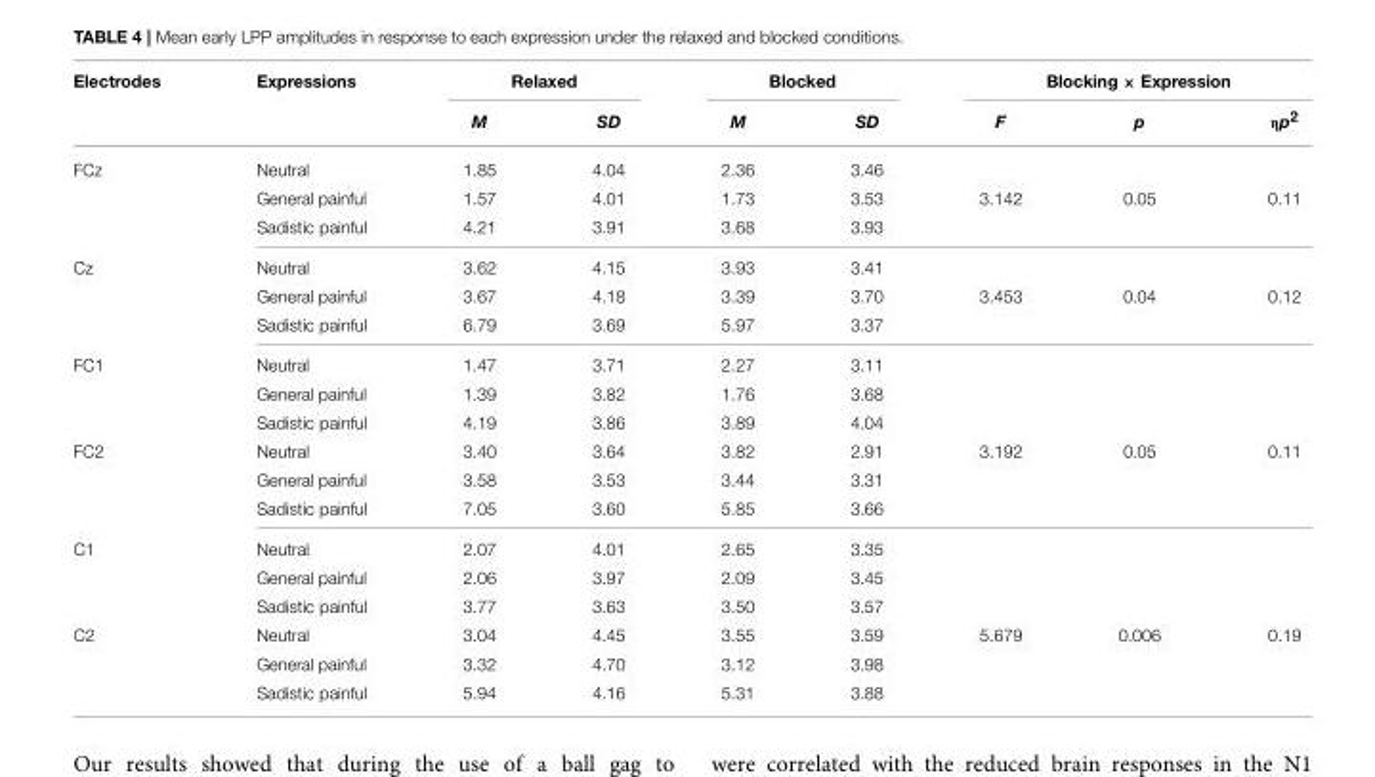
<table><thead><tr><td rowspan="2">Electrodes</td><td rowspan="2">Expressions</td><td colspan="2">Relaxed</td><td colspan="2">Blocked</td><td colspan="3">Blocking × Expression</td></tr><tr><td>M</td><td>SD</td><td>M</td><td>SD</td><td>F</td><td>p</td><td>ηp<sup>2</sup></td></tr></thead><tbody><tr><td rowspan="3">FCz</td><td>Neutral</td><td>1.85</td><td>4.04</td><td>2.36</td><td>3.46</td><td></td><td></td><td></td></tr><tr><td>General painful</td><td>1.57</td><td>4.01</td><td>1.73</td><td>3.53</td><td>3.142</td><td>0.05</td><td>0.11</td></tr><tr><td>Sadistic painful</td><td>4.21</td><td>3.91</td><td>3.68</td><td>3.93</td><td></td><td></td><td></td></tr><tr><td rowspan="3">Cz</td><td>Neutral</td><td>3.62</td><td>4.15</td><td>3.93</td><td>3.41</td><td></td><td></td><td></td></tr><tr><td>General painful</td><td>3.67</td><td>4.18</td><td>3.39</td><td>3.70</td><td>3.453</td><td>0.04</td><td>0.12</td></tr><tr><td>Sadistic painful</td><td>6.79</td><td>3.69</td><td>5.97</td><td>3.37</td><td></td><td></td><td></td></tr><tr><td rowspan="3">FC1</td><td>Neutral</td><td>1.47</td><td>3.71</td><td>2.27</td><td>3.11</td><td></td><td></td><td></td></tr><tr><td>General painful</td><td>1.39</td><td>3.82</td><td>1.76</td><td>3.68</td><td></td><td></td><td></td></tr><tr><td>Sadistic painful</td><td>4.19</td><td>3.86</td><td>3.89</td><td>4.04</td><td></td><td></td><td></td></tr><tr><td rowspan="3">FC2</td><td>Neutral</td><td>3.40</td><td>3.64</td><td>3.82</td><td>2.91</td><td>3.192</td><td>0.05</td><td>0.11</td></tr><tr><td>General painful</td><td>3.58</td><td>3.53</td><td>3.44</td><td>3.31</td><td></td><td></td><td></td></tr><tr><td>Sadistic painful</td><td>7.05</td><td>3.60</td><td>5.85</td><td>3.66</td><td></td><td></td><td></td></tr><tr><td rowspan="3">C1</td><td>Neutral</td><td>2.07</td><td>4.01</td><td>2.65</td><td>3.35</td><td></td><td></td><td></td></tr><tr><td>General painful</td><td>2.06</td><td>3.97</td><td>2.09</td><td>3.45</td><td></td><td></td><td></td></tr><tr><td>Sadistic painful</td><td>3.77</td><td>3.63</td><td>3.50</td><td>3.57</td><td></td><td></td><td></td></tr><tr><td rowspan="3">C2</td><td>Neutral</td><td>3.04</td><td>4.45</td><td>3.55</td><td>3.59</td><td>5.679</td><td>0.006</td><td>0.19</td></tr><tr><td>General painful</td><td>3.32</td><td>4.70</td><td>3.12</td><td>3.98</td><td></td><td></td><td></td></tr><tr><td>Sadistic painful</td><td>5.94</td><td>4.16</td><td>5.31</td><td>3.88</td><td></td><td></td><td></td></tr></tbody></table>